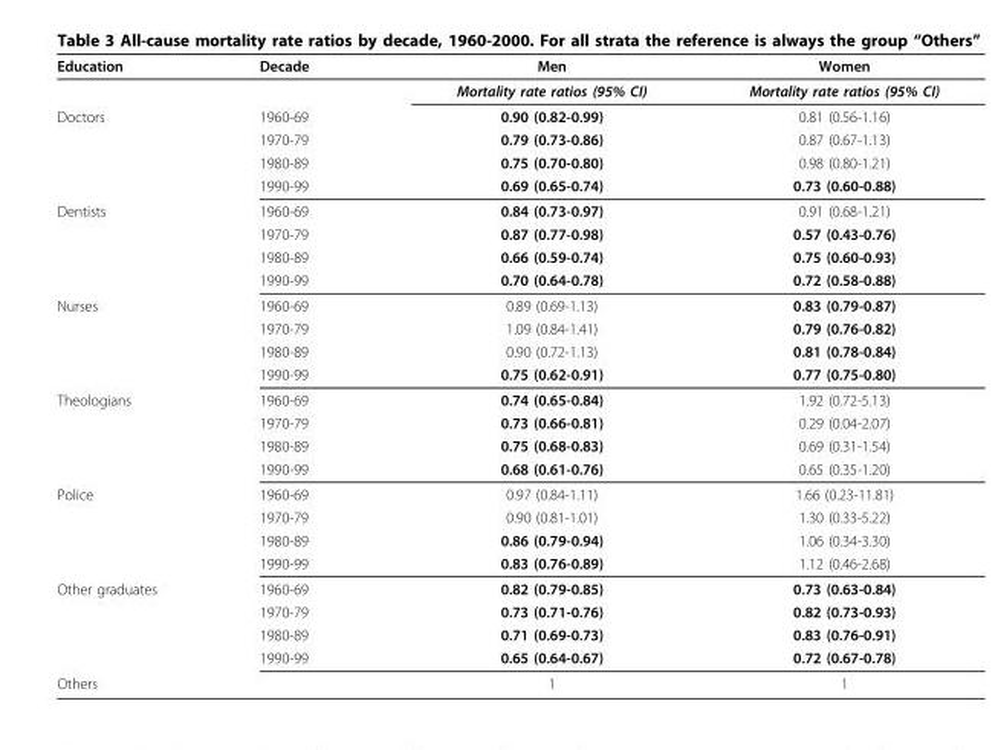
<table><thead><tr><td>Education</td><td>Decade</td><td>Men</td><td>Women</td></tr></thead><tbody><tr><td></td><td></td><td>Mortality rate ratios (95% CI)</td><td>Mortality rate ratios (95% CI)</td></tr><tr><td rowspan="4">Doctors</td><td>1960-69</td><td>0.90 (0.82-0.99)</td><td>0.81 (0.56-1.16)</td></tr><tr><td>1970-79</td><td>0.79 (0.73-0.86)</td><td>0.87 (0.67-1.13)</td></tr><tr><td>1980-89</td><td>0.75 (0.70-0.80)</td><td>0.98 (0.80-1.21)</td></tr><tr><td>1990-99</td><td>0.69 (0.65-0.74)</td><td>0.73 (0.60-0.88)</td></tr><tr><td rowspan="4">Dentists</td><td>1960-69</td><td>0.84 (0.73-0.97)</td><td>0.91 (0.68-1.21)</td></tr><tr><td>1970-79</td><td>0.87 (0.77-0.98)</td><td>0.57 (0.43-0.76)</td></tr><tr><td>1980-89</td><td>0.66 (0.59-0.74)</td><td>0.75 (0.60-0.93)</td></tr><tr><td>1990-99</td><td>0.70 (0.64-0.78)</td><td>0.72 (0.58-0.88)</td></tr><tr><td rowspan="4">Nurses</td><td>1960-69</td><td>0.89 (0.69-1.13)</td><td>0.83 (0.79-0.87)</td></tr><tr><td>1970-79</td><td>1.09 (0.84-1.41)</td><td>0.79 (0.76-0.82)</td></tr><tr><td>1980-89</td><td>0.90 (0.72-1.13)</td><td>0.81 (0.78-0.84)</td></tr><tr><td>1990-99</td><td>0.75 (0.62-0.91)</td><td>0.77 (0.75-0.80)</td></tr><tr><td rowspan="4">Theologians</td><td>1960-69</td><td>0.74 (0.65-0.84)</td><td>1.92 (0.72-5.13)</td></tr><tr><td>1970-79</td><td>0.73 (0.66-0.81)</td><td>0.29 (0.04-2.07)</td></tr><tr><td>1980-89</td><td>0.75 (0.68-0.83)</td><td>0.69 (0.31-1.54)</td></tr><tr><td>1990-99</td><td>0.68 (0.61-0.76)</td><td>0.65 (0.35-1.20)</td></tr><tr><td rowspan="4">Police</td><td>1960-69</td><td>0.97 (0.84-1.11)</td><td>1.66 (0.23-11.81)</td></tr><tr><td>1970-79</td><td>0.90 (0.81-1.01)</td><td>1.30 (0.33-5.22)</td></tr><tr><td>1980-89</td><td>0.86 (0.79-0.94)</td><td>1.06 (0.34-3.30)</td></tr><tr><td>1990-99</td><td>0.83 (0.76-0.89)</td><td>1.12 (0.46-2.68)</td></tr><tr><td rowspan="4">Other graduates</td><td>1960-69</td><td>0.82 (0.79-0.85)</td><td>0.73 (0.63-0.84)</td></tr><tr><td>1970-79</td><td>0.73 (0.71-0.76)</td><td>0.82 (0.73-0.93)</td></tr><tr><td>1980-89</td><td>0.71 (0.69-0.73)</td><td>0.83 (0.76-0.91)</td></tr><tr><td>1990-99</td><td>0.65 (0.64-0.67)</td><td>0.72 (0.67-0.78)</td></tr><tr><td>Others</td><td></td><td>1</td><td>1</td></tr></tbody></table>